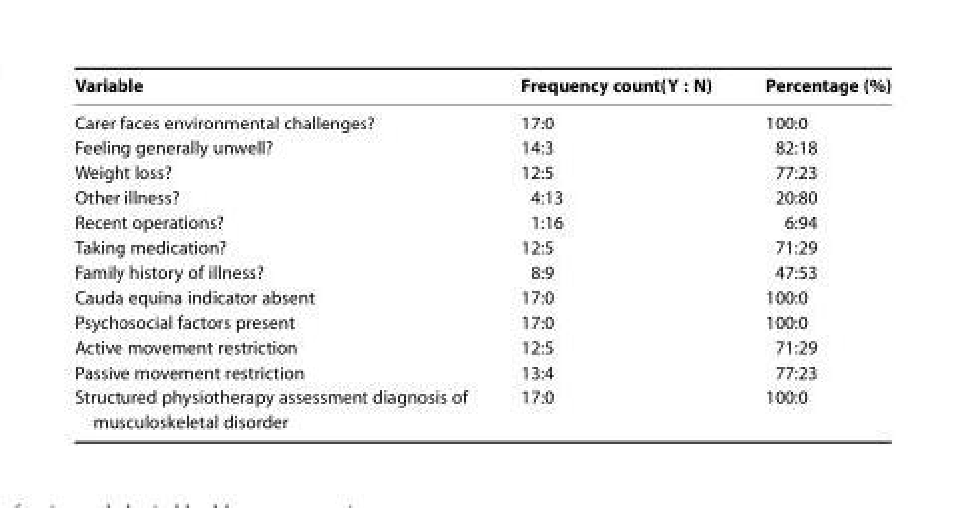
<table><thead><tr><td>Variable</td><td>Frequency count(Y : N)</td><td>Percentage (%)</td></tr></thead><tbody><tr><td>Carer faces environmental challenges?</td><td>17:0</td><td>100:0</td></tr><tr><td>Feeling generally unwell?</td><td>14:3</td><td>82:18</td></tr><tr><td>Weight loss?</td><td>12:5</td><td>77:23</td></tr><tr><td>Other illness?</td><td>4:13</td><td>20:80</td></tr><tr><td>Recent operations?</td><td>1:16</td><td>6:94</td></tr><tr><td>Taking medication?</td><td>12:5</td><td>71:29</td></tr><tr><td>Family history of illness?</td><td>8:9</td><td>47:53</td></tr><tr><td>Cauda equina indicator absent</td><td>17:0</td><td>100:0</td></tr><tr><td>Psychosocial factors present</td><td>17:0</td><td>100:0</td></tr><tr><td>Active movement restriction</td><td>12:5</td><td>71:29</td></tr><tr><td>Passive movement restriction</td><td>13:4</td><td>77:23</td></tr><tr><td>Structured physiotherapy assessment diagnosis of musculoskeletal disorder</td><td>17:0</td><td>100:0</td></tr></tbody></table>